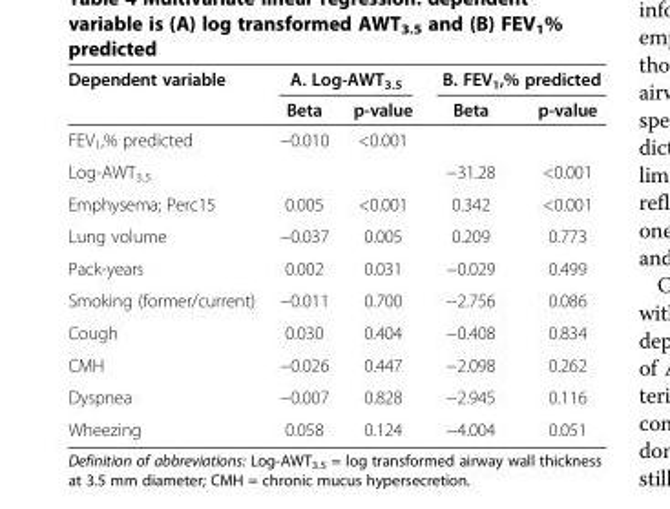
<table><thead><tr><td rowspan="2">Dependent variable</td><td colspan="2">A. Log-AWT<sub>3.5</sub></td><td colspan="2">B. FEV<sub>1</sub>,% predicted</td></tr><tr><td>Beta</td><td>p-value</td><td>Beta</td><td>p-value</td></tr></thead><tbody><tr><td>FEV<sub>1</sub>,% predicted</td><td>−0.010</td><td>&lt;0.001</td><td></td><td></td></tr><tr><td>Log-AWT<sub>3.5</sub></td><td></td><td></td><td>−31.28</td><td>&lt;0.001</td></tr><tr><td>Emphysema; Perc15</td><td>0.005</td><td>&lt;0.001</td><td>0.342</td><td>&lt;0.001</td></tr><tr><td>Lung volume</td><td>−0.037</td><td>0.005</td><td>0.209</td><td>0.773</td></tr><tr><td>Pack-years</td><td>0.002</td><td>0.031</td><td>−0.029</td><td>0.499</td></tr><tr><td>Smoking (former/current)</td><td>−0.011</td><td>0.700</td><td>−2.756</td><td>0.086</td></tr><tr><td>Cough</td><td>0.030</td><td>0.404</td><td>−0.408</td><td>0.834</td></tr><tr><td>CMH</td><td>−0.026</td><td>0.447</td><td>−2.098</td><td>0.262</td></tr><tr><td>Dyspnea</td><td>−0.007</td><td>0.828</td><td>−2.945</td><td>0.116</td></tr><tr><td>Wheezing</td><td>0.058</td><td>0.124</td><td>−4.004</td><td>0.051</td></tr></tbody></table>